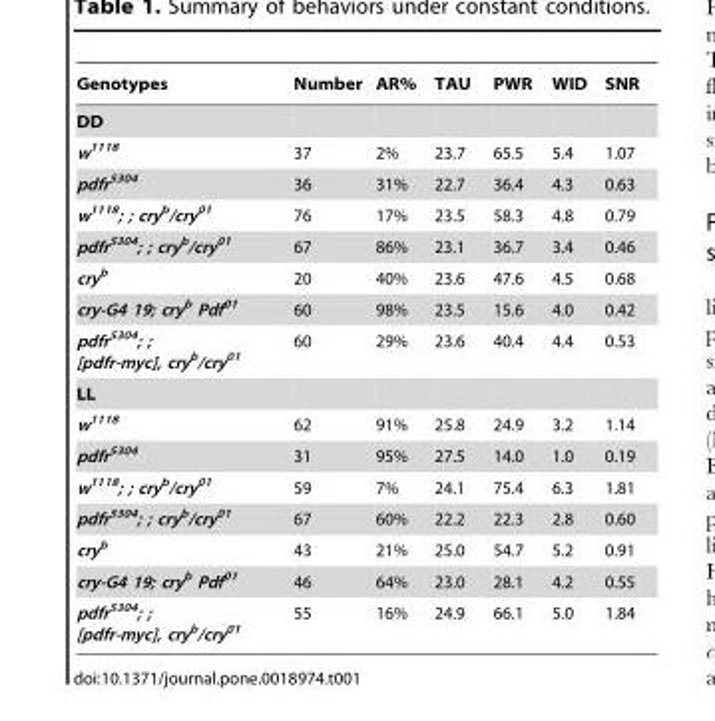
<table><thead><tr><td>Genotypes</td><td>Number</td><td>AR%</td><td>TAU</td><td>PWR</td><td>WID</td><td>SNR</td></tr></thead><tbody><tr><td colspan="7">DD</td></tr><tr><td>w<sup>1118</sup></td><td>37</td><td>2%</td><td>23.7</td><td>65.5</td><td>5.4</td><td>1.07</td></tr><tr><td>pdfr<sup>5304</sup></td><td>36</td><td>31%</td><td>22.7</td><td>36.4</td><td>4.3</td><td>0.63</td></tr><tr><td>w<sup>1118</sup>; ; cry<sup>b</sup>/cry<sup>01</sup></td><td>76</td><td>17%</td><td>23.5</td><td>58.3</td><td>4.8</td><td>0.79</td></tr><tr><td>pdfr<sup>5304</sup>; ; cry<sup>b</sup>/cry<sup>01</sup></td><td>67</td><td>86%</td><td>23.1</td><td>36.7</td><td>3.4</td><td>0.46</td></tr><tr><td>cry<sup>b</sup></td><td>20</td><td>40%</td><td>23.6</td><td>47.6</td><td>4.5</td><td>0.68</td></tr><tr><td>cry-G4 19; cry<sup>b</sup> Pdf<sup>01</sup></td><td>60</td><td>98%</td><td>23.5</td><td>15.6</td><td>4.0</td><td>0.42</td></tr><tr><td>pdfr<sup>5304</sup>; ; [pdfr-myc], cry<sup>b</sup>/cry<sup>01</sup></td><td>60</td><td>29%</td><td>23.6</td><td>40.4</td><td>4.4</td><td>0.53</td></tr><tr><td colspan="7">LL</td></tr><tr><td>w<sup>1118</sup></td><td>62</td><td>91%</td><td>25.8</td><td>24.9</td><td>3.2</td><td>1.14</td></tr><tr><td>pdfr<sup>5304</sup></td><td>31</td><td>95%</td><td>27.5</td><td>14.0</td><td>1.0</td><td>0.19</td></tr><tr><td>w<sup>1118</sup>; ; cry<sup>b</sup>/cry<sup>01</sup></td><td>59</td><td>7%</td><td>24.1</td><td>75.4</td><td>6.3</td><td>1.81</td></tr><tr><td>pdfr<sup>5304</sup>; ; cry<sup>b</sup>/cry<sup>01</sup></td><td>67</td><td>60%</td><td>22.2</td><td>22.3</td><td>2.8</td><td>0.60</td></tr><tr><td>cry<sup>b</sup></td><td>43</td><td>21%</td><td>25.0</td><td>54.7</td><td>5.2</td><td>0.91</td></tr><tr><td>cry-G4 19; cry<sup>b</sup> Pdf<sup>01</sup></td><td>46</td><td>64%</td><td>23.0</td><td>28.1</td><td>4.2</td><td>0.55</td></tr><tr><td>pdfr<sup>5304</sup>; ; [pdfr-myc], cry<sup>b</sup>/cry<sup>01</sup></td><td>55</td><td>16%</td><td>24.9</td><td>66.1</td><td>5.0</td><td>1.84</td></tr></tbody></table>